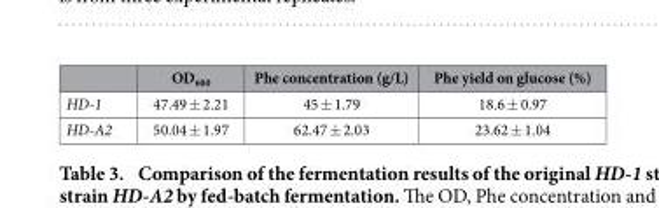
<table><thead><tr><td></td><td>OD<sub>600</sub></td><td>Phe concentration (g/L)</td><td>Phe yield on glucose (%)</td></tr></thead><tbody><tr><td>HD-1</td><td>47.49 ± 2.21</td><td>45 ± 1.79</td><td>18.6 ± 0.97</td></tr><tr><td>HD-A2</td><td>50.04 ± 1.97</td><td>62.47 ± 2.03</td><td>23.62 ± 1.04</td></tr></tbody></table>